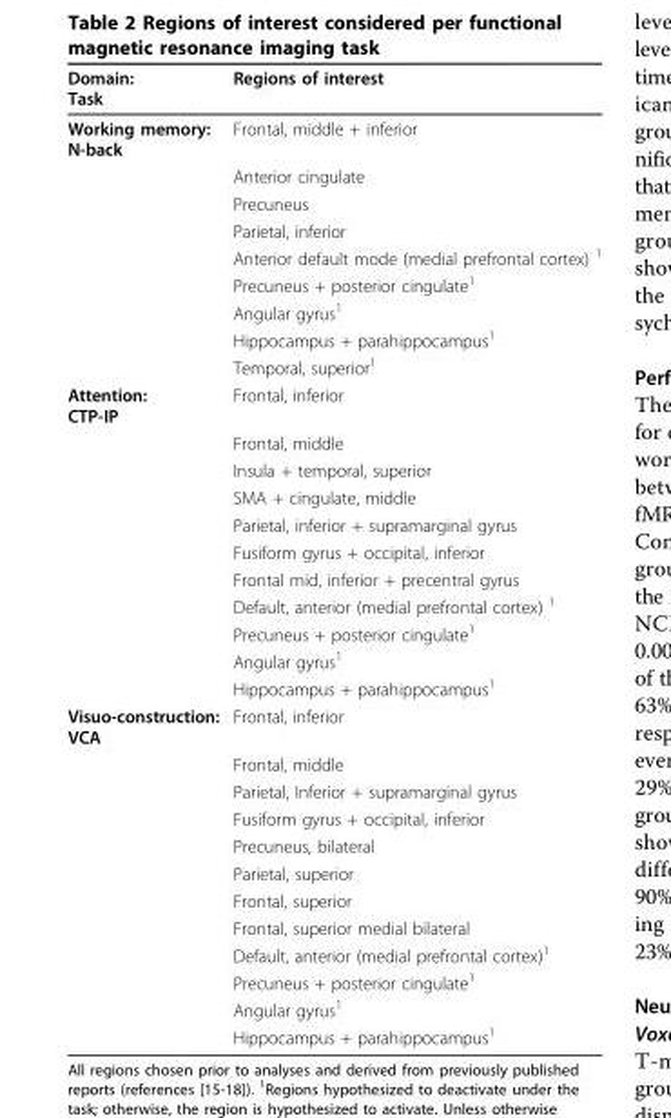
<table><thead><tr><td>Domain: Task</td><td>Regions of interest</td></tr></thead><tbody><tr><td rowspan="9">Working memory: N-back</td><td>Frontal, middle + inferior</td></tr><tr><td>Anterior cingulate</td></tr><tr><td>Precuneus</td></tr><tr><td>Parietal, inferior</td></tr><tr><td>Anterior default mode (medial prefrontal cortex) <sup>1</sup></td></tr><tr><td>Precuneus + posterior cingulate<sup>1</sup></td></tr><tr><td>Angular gyrus<sup>1</sup></td></tr><tr><td>Hippocampus + parahippocampus<sup>1</sup></td></tr><tr><td>Temporal, superior<sup>1</sup></td></tr><tr><td rowspan="11">Attention: CTP-IP</td><td>Frontal, inferior</td></tr><tr><td>Frontal, middle</td></tr><tr><td>Insula + temporal, superior</td></tr><tr><td>SMA + cingulate, middle</td></tr><tr><td>Parietal, inferior + supramarginal gyrus</td></tr><tr><td>Fusiform gyrus + occipital, inferior</td></tr><tr><td>Frontal mid, inferior + precentral gyrus</td></tr><tr><td>Default, anterior (medial prefrontal cortex) <sup>1</sup></td></tr><tr><td>Precuneus + posterior cingulate<sup>1</sup></td></tr><tr><td>Angular gyrus<sup>1</sup></td></tr><tr><td>Hippocampus + parahippocampus<sup>1</sup></td></tr><tr><td rowspan="12">Visuo-construction: VCA</td><td>Frontal, inferior</td></tr><tr><td>Frontal, middle</td></tr><tr><td>Parietal, Inferior + supramarginal gyrus</td></tr><tr><td>Fusiform gyrus + occipital, inferior</td></tr><tr><td>Precuneus, bilateral</td></tr><tr><td>Parietal, superior</td></tr><tr><td>Frontal, superior</td></tr><tr><td>Frontal, superior medial bilateral</td></tr><tr><td>Default, anterior (medial prefrontal cortex)<sup>1</sup></td></tr><tr><td>Precuneus + posterior cingulate<sup>1</sup></td></tr><tr><td>Angular gyrus<sup>1</sup></td></tr><tr><td>Hippocampus + parahippocampus<sup>1</sup></td></tr></tbody></table>